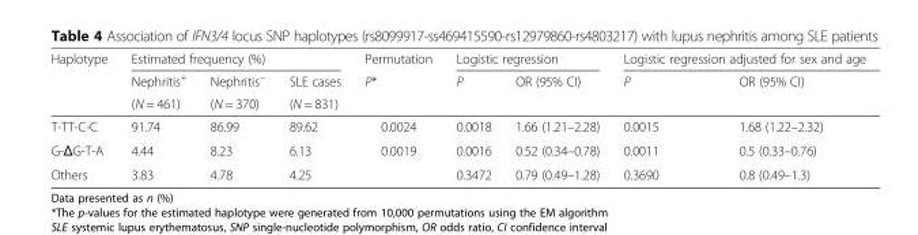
<table><thead><tr><td rowspan="3">Haplotype</td><td colspan="3">Estimated frequency (%)</td><td rowspan="3">Permutation P*</td><td colspan="2">Logistic regression</td><td colspan="2">Logistic regression adjusted for sex and age</td></tr><tr><td rowspan="2">Nephritis<sup>+</sup> (N = 461)</td><td rowspan="2">Nephritis<sup>−</sup> (N = 370)</td><td rowspan="2">SLE cases (N = 831)</td><td rowspan="2">P</td><td rowspan="2">OR (95% CI)</td><td rowspan="2">P</td><td rowspan="2">OR (95% CI)</td></tr><tr></tr></thead><tbody><tr><td>T-TT-C-C</td><td>91.74</td><td>86.99</td><td>89.62</td><td>0.0024</td><td>0.0018</td><td>1.66 (1.21–2.28)</td><td>0.0015</td><td>1.68 (1.22–2.32)</td></tr><tr><td>G-ΔG-T-A</td><td>4.44</td><td>8.23</td><td>6.13</td><td>0.0019</td><td>0.0016</td><td>0.52 (0.34–0.78)</td><td>0.0011</td><td>0.5 (0.33–0.76)</td></tr><tr><td>Others</td><td>3.83</td><td>4.78</td><td>4.25</td><td></td><td>0.3472</td><td>0.79 (0.49–1.28)</td><td>0.3690</td><td>0.8 (0.49–1.3)</td></tr></tbody></table>